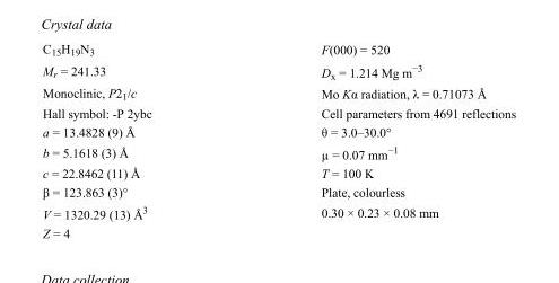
<table><tbody><tr><td>C<sub>15</sub>H<sub>19</sub>N<sub>3</sub></td><td>F(000) = 520</td></tr><tr><td>M<sub>r</sub> = 241.33</td><td>D<sub>x</sub> = 1.214 Mg m<sup>−3</sup></td></tr><tr><td>Monoclinic, P2<sub>1</sub>/c</td><td>Mo Kα radiation, λ = 0.71073 Å</td></tr><tr><td>Hall symbol: -P 2ybc</td><td>Cell parameters from 4691 reflections</td></tr><tr><td>a = 13.4828 (9) Å</td><td>θ = 3.0–30.0°</td></tr><tr><td>b = 5.1618 (3) Å</td><td>µ = 0.07 mm<sup>−1</sup></td></tr><tr><td>c = 22.8462 (11) Å</td><td>T = 100 K</td></tr><tr><td>β = 123.863 (3)°</td><td>Plate, colourless</td></tr><tr><td>V = 1320.29 (13) Å<sup>3</sup></td><td>0.30 × 0.23 × 0.08 mm</td></tr><tr><td>Z = 4</td><td></td></tr></tbody></table>